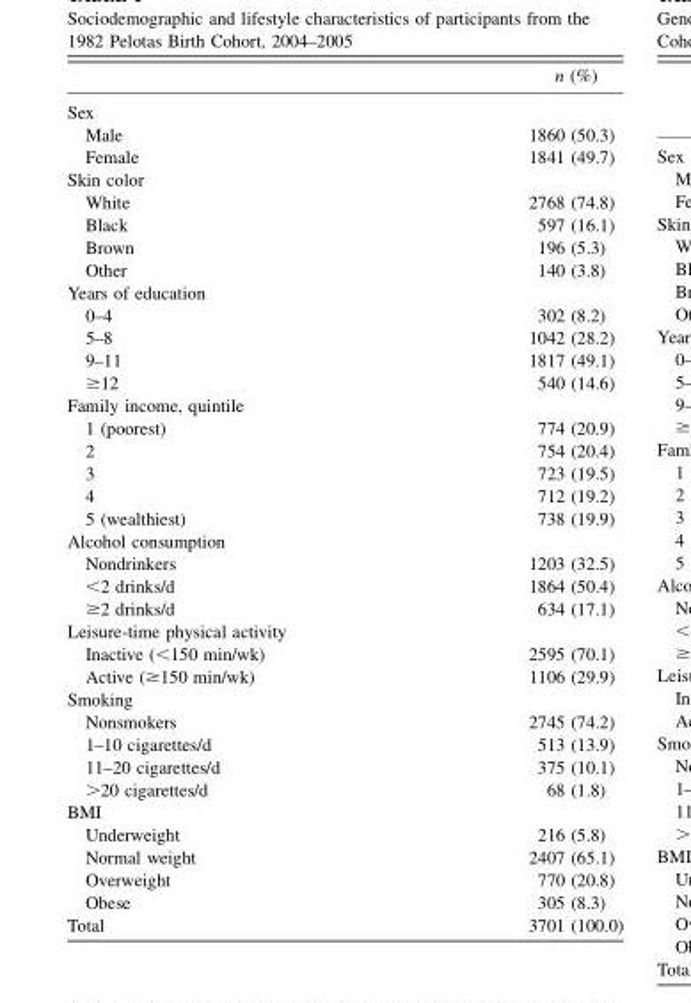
<table><thead><tr><td></td><td>n (%)</td></tr></thead><tbody><tr><td colspan="2">Sex</td></tr><tr><td>Male</td><td>1860 (50.3)</td></tr><tr><td>Female</td><td>1841 (49.7)</td></tr><tr><td colspan="2">Skin color</td></tr><tr><td>White</td><td>2768 (74.8)</td></tr><tr><td>Black</td><td>597 (16.1)</td></tr><tr><td>Brown</td><td>196 (5.3)</td></tr><tr><td>Other</td><td>140 (3.8)</td></tr><tr><td colspan="2">Years of education</td></tr><tr><td>0–4</td><td>302 (8.2)</td></tr><tr><td>5–8</td><td>1042 (28.2)</td></tr><tr><td>9–11</td><td>1817 (49.1)</td></tr><tr><td>≥12</td><td>540 (14.6)</td></tr><tr><td colspan="2">Family income, quintile</td></tr><tr><td>1 (poorest)</td><td>774 (20.9)</td></tr><tr><td>2</td><td>754 (20.4)</td></tr><tr><td>3</td><td>723 (19.5)</td></tr><tr><td>4</td><td>712 (19.2)</td></tr><tr><td>5 (wealthiest)</td><td>738 (19.9)</td></tr><tr><td colspan="2">Alcohol consumption</td></tr><tr><td>Nondrinkers</td><td>1203 (32.5)</td></tr><tr><td>&lt;2 drinks/d</td><td>1864 (50.4)</td></tr><tr><td>≥2 drinks/d</td><td>634 (17.1)</td></tr><tr><td colspan="2">Leisure-time physical activity</td></tr><tr><td>Inactive (&lt;150 min/wk)</td><td>2595 (70.1)</td></tr><tr><td>Active (≥150 min/wk)</td><td>1106 (29.9)</td></tr><tr><td colspan="2">Smoking</td></tr><tr><td>Nonsmokers</td><td>2745 (74.2)</td></tr><tr><td>1–10 cigarettes/d</td><td>513 (13.9)</td></tr><tr><td>11–20 cigarettes/d</td><td>375 (10.1)</td></tr><tr><td>&gt;20 cigarettes/d</td><td>68 (1.8)</td></tr><tr><td colspan="2">BMI</td></tr><tr><td>Underweight</td><td>216 (5.8)</td></tr><tr><td>Normal weight</td><td>2407 (65.1)</td></tr><tr><td>Overweight</td><td>770 (20.8)</td></tr><tr><td>Obese</td><td>305 (8.3)</td></tr><tr><td>Total</td><td>3701 (100.0)</td></tr></tbody></table>